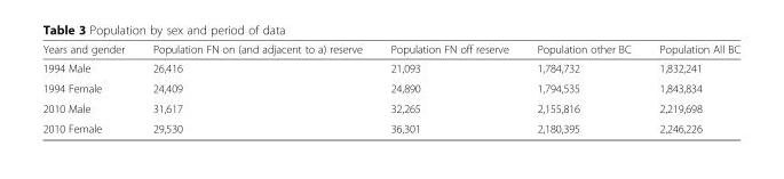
<table><thead><tr><td>Years and gender</td><td>Population FN on (and adjacent to a) reserve</td><td>Population FN off reserve</td><td>Population other BC</td><td>Population All BC</td></tr></thead><tbody><tr><td>1994 Male</td><td>26,416</td><td>21,093</td><td>1,784,732</td><td>1,832,241</td></tr><tr><td>1994 Female</td><td>24,409</td><td>24,890</td><td>1,794,535</td><td>1,843,834</td></tr><tr><td>2010 Male</td><td>31,617</td><td>32,265</td><td>2,155,816</td><td>2,219,698</td></tr><tr><td>2010 Female</td><td>29,530</td><td>36,301</td><td>2,180,395</td><td>2,246,226</td></tr></tbody></table>